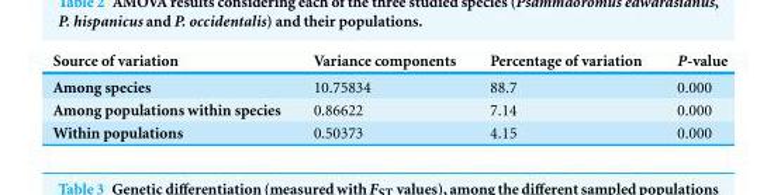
<table><thead><tr><td>Source of variation</td><td>Variance components</td><td>Percentage of variation</td><td>P-value</td></tr></thead><tbody><tr><td>Among species</td><td>10.75834</td><td>88.7</td><td>0.000</td></tr><tr><td>Among populations within species</td><td>0.86622</td><td>7.14</td><td>0.000</td></tr><tr><td>Within populations</td><td>0.50373</td><td>4.15</td><td>0.000</td></tr></tbody></table>